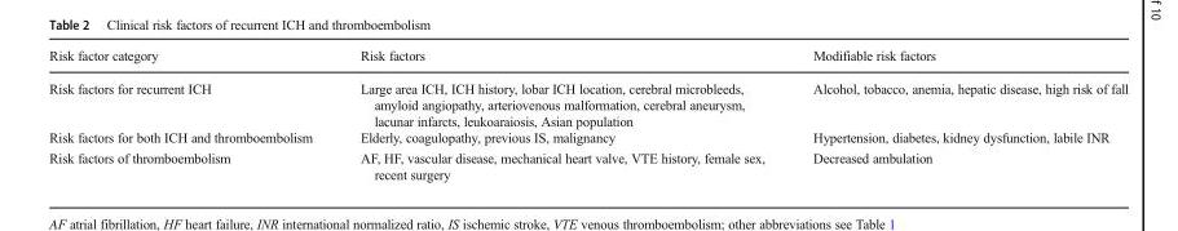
<table><thead><tr><td>Risk factor category</td><td>Risk factors</td><td>Modifiable risk factors</td></tr></thead><tbody><tr><td>Risk factors for recurrent ICH</td><td>Large area ICH, ICH history, lobar ICH location, cerebral microbleeds, amyloid angiopathy, arteriovenous malformation, cerebral aneurysm, lacunar infarcts, leukoaraiosis, Asian population</td><td>Alcohol, tobacco, anemia, hepatic disease, high risk of fall</td></tr><tr><td>Risk factors for both ICH and thromboembolism</td><td>Elderly, coagulopathy, previous IS, malignancy</td><td>Hypertension, diabetes, kidney dysfunction, labile INR</td></tr><tr><td>Risk factors of thromboembolism</td><td>AF, HF, vascular disease, mechanical heart valve, VTE history, female sex, recent surgery</td><td>Decreased ambulation</td></tr></tbody></table>